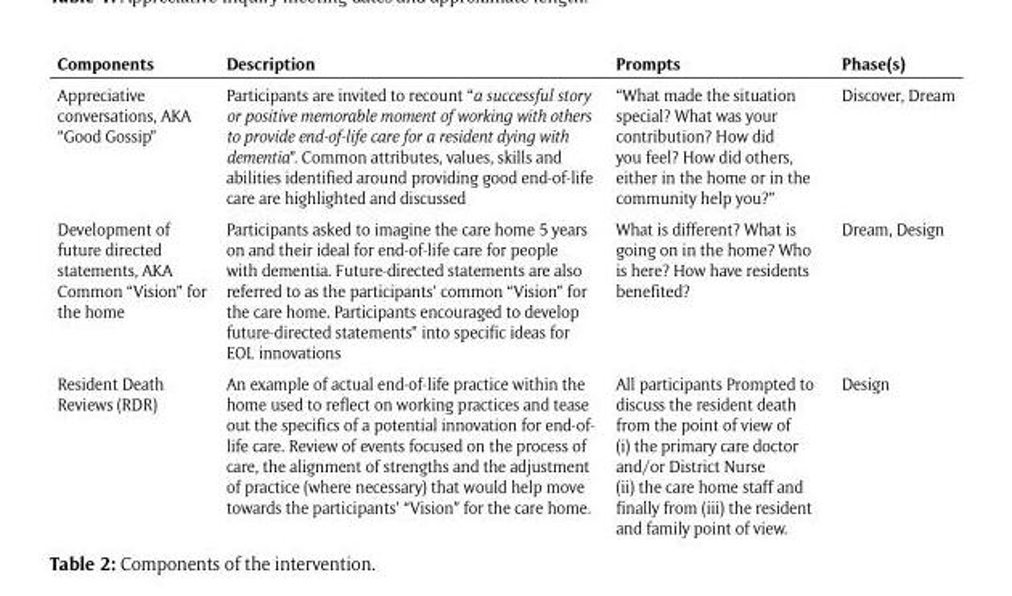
<table><thead><tr><td>Components</td><td>Description</td><td>Prompts</td><td>Phase(s)</td></tr></thead><tbody><tr><td>Appreciative conversations, AKA “Good Gossip”</td><td>Participants are invited to recount “a successful story or positive memorable moment of working with others to provide end-of-life care for a resident dying with dementia”. Common attributes, values, skills and abilities identified around providing good end-of-life care are highlighted and discussed</td><td>“What made the situation special? What was your contribution? How did you feel? How did others, either in the home or in the community help you?”</td><td>Discover, Dream</td></tr><tr><td>Development of future directed statements, AKA Common “Vision” for the home</td><td>Participants asked to imagine the care home 5 years on and their ideal for end-of-life care for people with dementia. Future-directed statements are also referred to as the participants’ common “Vision” for the care home. Participants encouraged to develop future-directed statements” into specific ideas for EOL innovations</td><td>What is different? What is going on in the home? Who is here? How have residents benefited?</td><td>Dream, Design</td></tr><tr><td>Resident Death Reviews (RDR)</td><td>An example of actual end-of-life practice within the home used to reflect on working practices and tease out the specifics of a potential innovation for end-of- life care. Review of events focused on the process of care, the alignment of strengths and the adjustment of practice (where necessary) that would help move towards the participants’ “Vision” for the care home.</td><td>All participants Prompted to discuss the resident death from the point of view of (i) the primary care doctor and/or District Nurse (ii) the care home staff and finally from (iii) the resident and family point of view.</td><td>Design</td></tr></tbody></table>